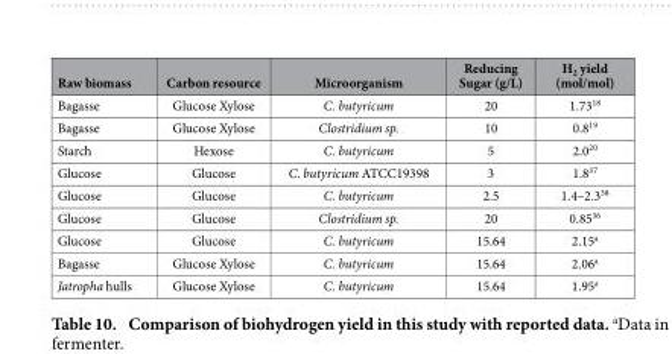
<table><thead><tr><td>Raw biomass</td><td>Carbon resource</td><td>Microorganism</td><td>Reducing Sugar (g/L)</td><td>H<sub>2</sub> yield (mol/mol)</td></tr></thead><tbody><tr><td>Bagasse</td><td>Glucose Xylose</td><td>C. butyricum</td><td>20</td><td>1.73<sup>18</sup></td></tr><tr><td>Bagasse</td><td>Glucose Xylose</td><td>Clostridium sp.</td><td>10</td><td>0.8<sup>19</sup></td></tr><tr><td>Starch</td><td>Hexose</td><td>C. butyricum</td><td>5</td><td>2.0<sup>20</sup></td></tr><tr><td>Glucose</td><td>Glucose</td><td>C. butyricum ATCC19398</td><td>3</td><td>1.8<sup>37</sup></td></tr><tr><td>Glucose</td><td>Glucose</td><td>C. butyricum</td><td>2.5</td><td>1.4–2.3<sup>38</sup></td></tr><tr><td>Glucose</td><td>Glucose</td><td>Clostridium sp.</td><td>20</td><td>0.85<sup>36</sup></td></tr><tr><td>Glucose</td><td>Glucose</td><td>C. butyricum</td><td>15.64</td><td>2.15<sup>a</sup></td></tr><tr><td>Bagasse</td><td>Glucose Xylose</td><td>C. butyricum</td><td>15.64</td><td>2.06<sup>a</sup></td></tr><tr><td>Jatropha hulls</td><td>Glucose Xylose</td><td>C. butyricum</td><td>15.64</td><td>1.95<sup>a</sup></td></tr></tbody></table>